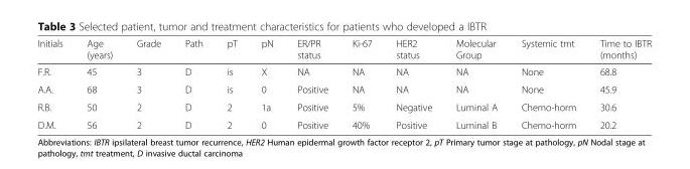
<table><thead><tr><td>Initials</td><td>Age (years)</td><td>Grade</td><td>Path</td><td>pT</td><td>pN</td><td>ER/PR status</td><td>Ki-67</td><td>HER2 status</td><td>Molecular Group</td><td>Systemic tmt</td><td>Time to IBTR (months)</td></tr></thead><tbody><tr><td>F.R.</td><td>45</td><td>3</td><td>D</td><td>is</td><td>X</td><td>NA</td><td>NA</td><td>NA</td><td>NA</td><td>None</td><td>68.8</td></tr><tr><td>A.A.</td><td>68</td><td>3</td><td>D</td><td>is</td><td>0</td><td>Positive</td><td>NA</td><td>NA</td><td>NA</td><td>None</td><td>45.9</td></tr><tr><td>R.B.</td><td>50</td><td>2</td><td>D</td><td>2</td><td>1a</td><td>Positive</td><td>5%</td><td>Negative</td><td>Luminal A</td><td>Chemo-horm</td><td>30.6</td></tr><tr><td>D.M.</td><td>56</td><td>2</td><td>D</td><td>2</td><td>0</td><td>Positive</td><td>40%</td><td>Positive</td><td>Luminal B</td><td>Chemo-horm</td><td>20.2</td></tr></tbody></table>